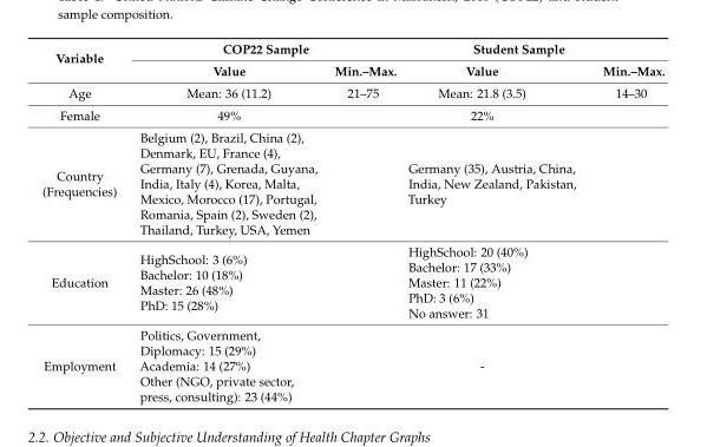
<table><thead><tr><td rowspan="2">Variable</td><td colspan="2">COP22 Sample</td><td colspan="2">Student Sample</td></tr><tr><td>Value</td><td>Min.–Max.</td><td>Value</td><td>Min.–Max.</td></tr></thead><tbody><tr><td>Age</td><td>Mean: 36 (11.2)</td><td>21–75</td><td>Mean: 21.8 (3.5)</td><td>14–30</td></tr><tr><td>Female</td><td>49%</td><td></td><td>22%</td><td></td></tr><tr><td>Country (Frequencies)</td><td>Belgium (2), Brazil, China (2), Denmark, EU, France (4), Germany (7), Grenada, Guyana, India, Italy (4), Korea, Malta, Mexico, Morocco (17), Portugal, Romania, Spain (2), Sweden (2), Thailand, Turkey, USA, Yemen</td><td></td><td>Germany (35), Austria, China, India, New Zealand, Pakistan, Turkey</td><td></td></tr><tr><td>Education</td><td>HighSchool: 3 (6%) Bachelor: 10 (18%) Master: 26 (48%) PhD: 15 (28%)</td><td></td><td>HighSchool: 20 (40%) Bachelor: 17 (33%) Master: 11 (22%) PhD: 3 (6%) No answer: 31</td><td></td></tr><tr><td>Employment</td><td>Politics, Government, Diplomacy: 15 (29%) Academia: 14 (27%) Other (NGO, private sector, press, consulting): 23 (44%)</td><td></td><td>-</td><td></td></tr></tbody></table>